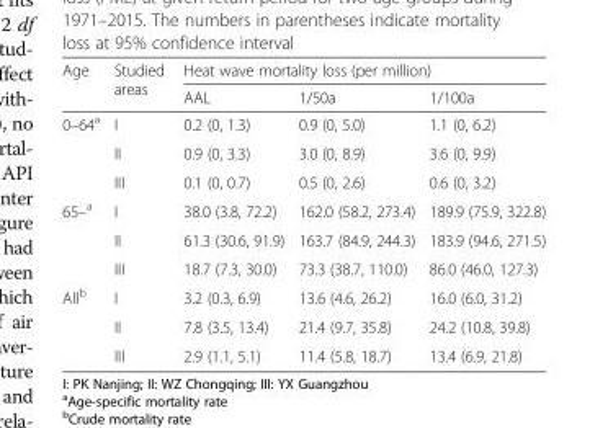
<table><thead><tr><td rowspan="2">Age</td><td rowspan="2">Studied areas</td><td colspan="3">Heat wave mortality loss (per million)</td></tr><tr><td>AAL</td><td>1/50a</td><td>1/100a</td></tr></thead><tbody><tr><td rowspan="3">0–64<sup>a</sup></td><td>I</td><td>0.2 (0, 1.3)</td><td>0.9 (0, 5.0)</td><td>1.1 (0, 6.2)</td></tr><tr><td>II</td><td>0.9 (0, 3.3)</td><td>3.0 (0, 8.9)</td><td>3.6 (0, 9.9)</td></tr><tr><td>III</td><td>0.1 (0, 0.7)</td><td>0.5 (0, 2.6)</td><td>0.6 (0, 3.2)</td></tr><tr><td rowspan="3">65–<sup>a</sup></td><td>I</td><td>38.0 (3.8, 72.2)</td><td>162.0 (58.2, 273.4)</td><td>189.9 (75.9, 322.8)</td></tr><tr><td>II</td><td>61.3 (30.6, 91.9)</td><td>163.7 (84.9, 244.3)</td><td>183.9 (94.6, 271.5)</td></tr><tr><td>III</td><td>18.7 (7.3, 30.0)</td><td>73.3 (38.7, 110.0)</td><td>86.0 (46.0, 127.3)</td></tr><tr><td rowspan="3">All<sup>b</sup></td><td>I</td><td>3.2 (0.3, 6.9)</td><td>13.6 (4.6, 26.2)</td><td>16.0 (6.0, 31.2)</td></tr><tr><td>II</td><td>7.8 (3.5, 13.4)</td><td>21.4 (9.7, 35.8)</td><td>24.2 (10.8, 39.8)</td></tr><tr><td>III</td><td>2.9 (1.1, 5.1)</td><td>11.4 (5.8, 18.7)</td><td>13.4 (6.9, 21.8)</td></tr></tbody></table>